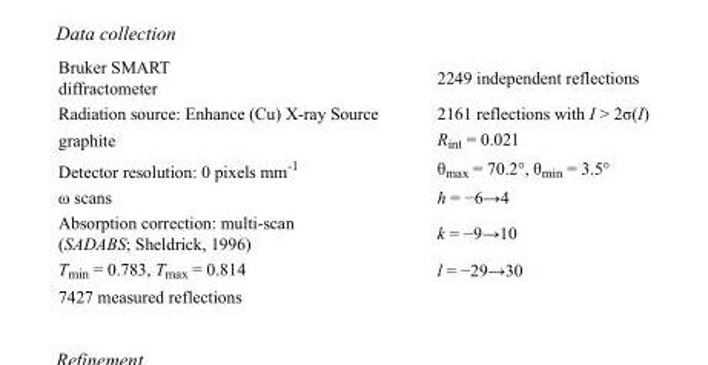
<table><tbody><tr><td>Bruker SMART diffractometer</td><td>2249 independent reflections</td></tr><tr><td>Radiation source: Enhance (Cu) X-ray Source</td><td>2161 reflections with I &gt; 2σ(I)</td></tr><tr><td>graphite</td><td>R<sub>int</sub> = 0.021</td></tr><tr><td>Detector resolution: 0 pixels mm<sup>-1</sup></td><td>θ<sub>max</sub> = 70.2°, θ<sub>min</sub> = 3.5°</td></tr><tr><td>ω scans</td><td>h = −6→4</td></tr><tr><td>Absorption correction: multi-scan (SADABS; Sheldrick, 1996)</td><td>k = −9→10</td></tr><tr><td>T<sub>min</sub> = 0.783, T<sub>max</sub> = 0.814</td><td>l = −29→30</td></tr><tr><td>7427 measured reflections</td><td></td></tr></tbody></table>